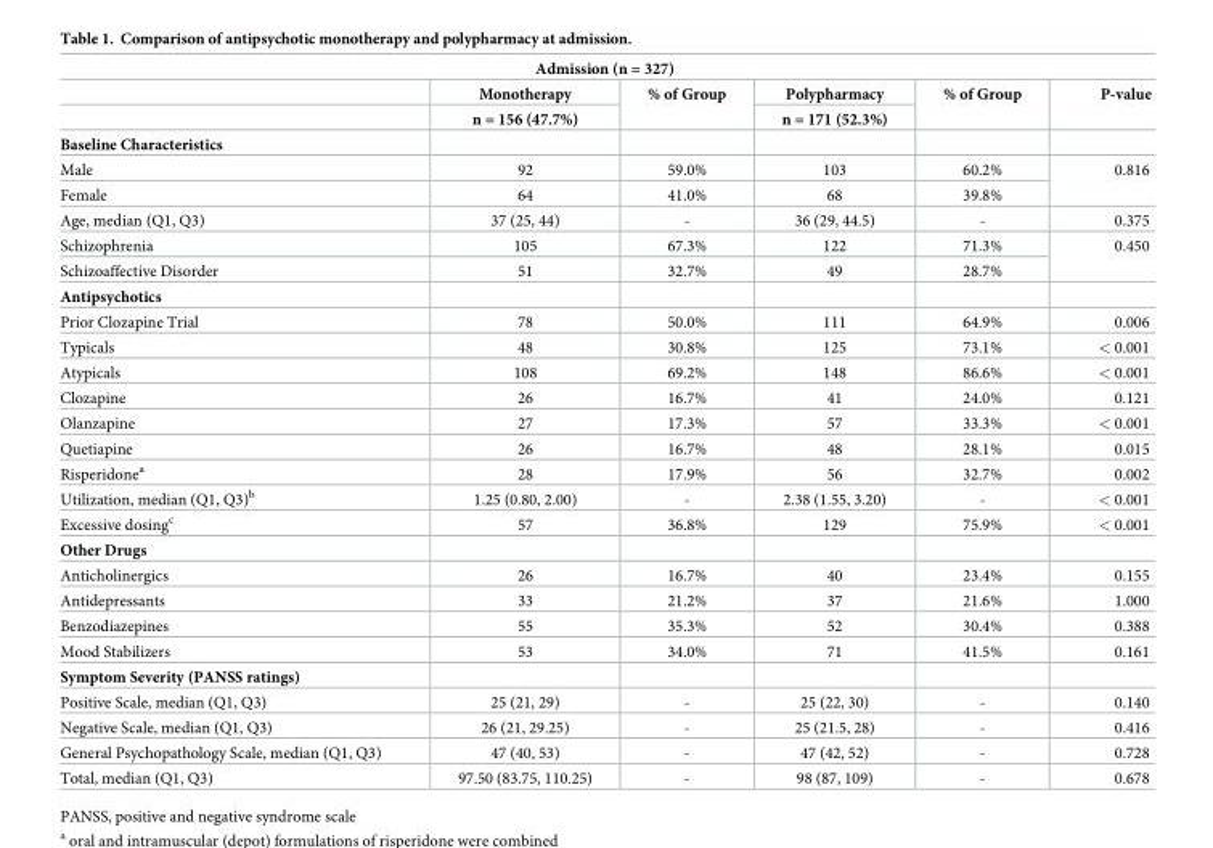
<table><thead><tr><td colspan="6">Admission (n = 327)</td></tr><tr><td rowspan="2"></td><td rowspan="2">Monotherapy n = 156 (47.7%)</td><td rowspan="2">% of Group</td><td rowspan="2">Polypharmacy n = 171 (52.3%)</td><td rowspan="2">% of Group</td><td rowspan="2">P-value</td></tr><tr></tr></thead><tbody><tr><td colspan="6">Baseline Characteristics</td></tr><tr><td>Male</td><td>92</td><td>59.0%</td><td>103</td><td>60.2%</td><td rowspan="2">0.816</td></tr><tr><td>Female</td><td>64</td><td>41.0%</td><td>68</td><td>39.8%</td></tr><tr><td>Age, median (Q1, Q3)</td><td>37 (25, 44)</td><td>-</td><td>36 (29, 44.5)</td><td>-</td><td>0.375</td></tr><tr><td>Schizophrenia</td><td>105</td><td>67.3%</td><td>122</td><td>71.3%</td><td rowspan="2">0.450</td></tr><tr><td>Schizoaffective Disorder</td><td>51</td><td>32.7%</td><td>49</td><td>28.7%</td></tr><tr><td colspan="6">Antipsychotics</td></tr><tr><td>Prior Clozapine Trial</td><td>78</td><td>50.0%</td><td>111</td><td>64.9%</td><td>0.006</td></tr><tr><td>Typicals</td><td>48</td><td>30.8%</td><td>125</td><td>73.1%</td><td>&lt; 0.001</td></tr><tr><td>Atypicals</td><td>108</td><td>69.2%</td><td>148</td><td>86.6%</td><td>&lt; 0.001</td></tr><tr><td>Clozapine</td><td>26</td><td>16.7%</td><td>41</td><td>24.0%</td><td>0.121</td></tr><tr><td>Olanzapine</td><td>27</td><td>17.3%</td><td>57</td><td>33.3%</td><td>&lt; 0.001</td></tr><tr><td>Quetiapine</td><td>26</td><td>16.7%</td><td>48</td><td>28.1%</td><td>0.015</td></tr><tr><td>Risperidone<sup>a</sup></td><td>28</td><td>17.9%</td><td>56</td><td>32.7%</td><td>0.002</td></tr><tr><td>Utilization, median (Q1, Q3)<sup>b</sup></td><td>1.25 (0.80, 2.00)</td><td>-</td><td>2.38 (1.55, 3.20)</td><td>-</td><td>&lt; 0.001</td></tr><tr><td>Excessive dosing<sup>c</sup></td><td>57</td><td>36.8%</td><td>129</td><td>75.9%</td><td>&lt; 0.001</td></tr><tr><td colspan="6">Other Drugs</td></tr><tr><td>Anticholinergics</td><td>26</td><td>16.7%</td><td>40</td><td>23.4%</td><td>0.155</td></tr><tr><td>Antidepressants</td><td>33</td><td>21.2%</td><td>37</td><td>21.6%</td><td>1.000</td></tr><tr><td>Benzodiazepines</td><td>55</td><td>35.3%</td><td>52</td><td>30.4%</td><td>0.388</td></tr><tr><td>Mood Stabilizers</td><td>53</td><td>34.0%</td><td>71</td><td>41.5%</td><td>0.161</td></tr><tr><td colspan="6">Symptom Severity (PANSS ratings)</td></tr><tr><td>Positive Scale, median (Q1, Q3)</td><td>25 (21, 29)</td><td>-</td><td>25 (22, 30)</td><td>-</td><td>0.140</td></tr><tr><td>Negative Scale, median (Q1, Q3)</td><td>26 (21, 29.25)</td><td>-</td><td>25 (21.5, 28)</td><td>-</td><td>0.416</td></tr><tr><td>General Psychopathology Scale, median (Q1, Q3)</td><td>47 (40, 53)</td><td>-</td><td>47 (42, 52)</td><td>-</td><td>0.728</td></tr><tr><td>Total, median (Q1, Q3)</td><td>97.50 (83.75, 110.25)</td><td>-</td><td>98 (87, 109)</td><td>-</td><td>0.678</td></tr></tbody></table>